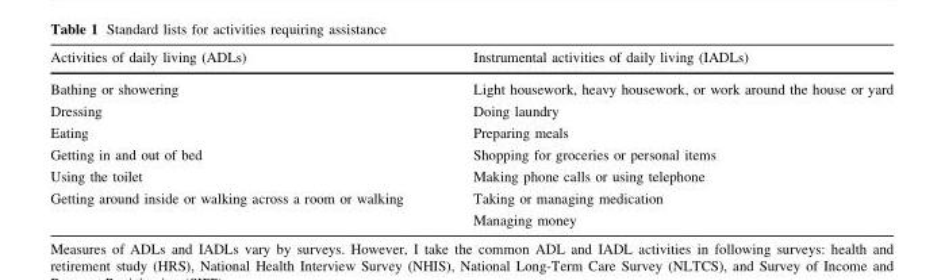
<table><thead><tr><td>Activities of daily living (ADLs)</td><td>Instrumental activities of daily living (IADLs)</td></tr></thead><tbody><tr><td>Bathing or showering</td><td>Light housework, heavy housework, or work around the house or yard</td></tr><tr><td>Dressing</td><td>Doing laundry</td></tr><tr><td>Eating</td><td>Preparing meals</td></tr><tr><td>Getting in and out of bed</td><td>Shopping for groceries or personal items</td></tr><tr><td>Using the toilet</td><td>Making phone calls or using telephone</td></tr><tr><td rowspan="2">Getting around inside or walking across a room or walking</td><td>Taking or managing medication</td></tr><tr><td>Managing money</td></tr></tbody></table>